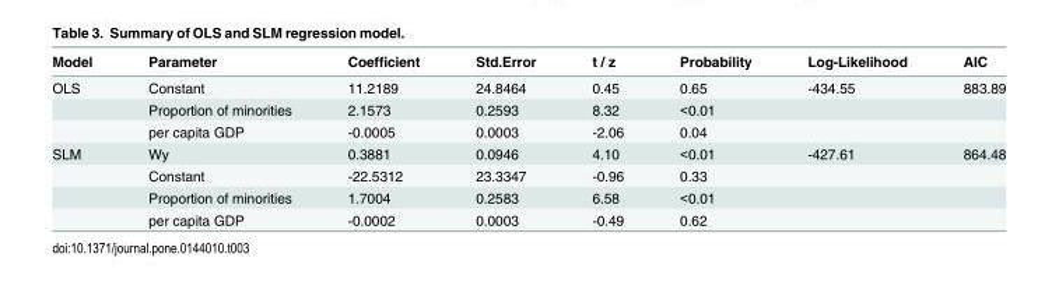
<table><thead><tr><td>Model</td><td>Parameter</td><td>Coefficient</td><td>Std.Error</td><td>t / z</td><td>Probability</td><td>Log-Likelihood</td><td>AIC</td></tr></thead><tbody><tr><td rowspan="3">OLS</td><td>Constant</td><td>11.2189</td><td>24.8464</td><td>0.45</td><td>0.65</td><td>-434.55</td><td>883.89</td></tr><tr><td>Proportion of minorities</td><td>2.1573</td><td>0.2593</td><td>8.32</td><td>&lt;0.01</td><td></td><td></td></tr><tr><td>per capita GDP</td><td>-0.0005</td><td>0.0003</td><td>-2.06</td><td>0.04</td><td></td><td></td></tr><tr><td rowspan="4">SLM</td><td>Wy</td><td>0.3881</td><td>0.0946</td><td>4.10</td><td>&lt;0.01</td><td>-427.61</td><td>864.48</td></tr><tr><td>Constant</td><td>-22.5312</td><td>23.3347</td><td>-0.96</td><td>0.33</td><td></td><td></td></tr><tr><td>Proportion of minorities</td><td>1.7004</td><td>0.2583</td><td>6.58</td><td>&lt;0.01</td><td></td><td></td></tr><tr><td>per capita GDP</td><td>-0.0002</td><td>0.0003</td><td>-0.49</td><td>0.62</td><td></td><td></td></tr></tbody></table>